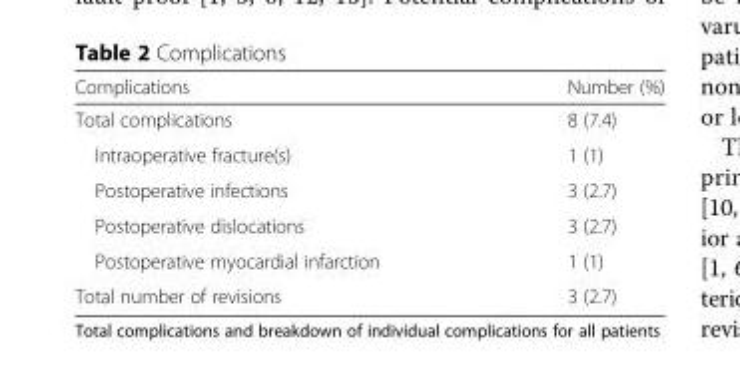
<table><thead><tr><td>Complications</td><td>Number (%)</td></tr></thead><tbody><tr><td>Total complications</td><td>8 (7.4)</td></tr><tr><td>Intraoperative fracture(s)</td><td>1 (1)</td></tr><tr><td>Postoperative infections</td><td>3 (2.7)</td></tr><tr><td>Postoperative dislocations</td><td>3 (2.7)</td></tr><tr><td>Postoperative myocardial infarction</td><td>1 (1)</td></tr><tr><td>Total number of revisions</td><td>3 (2.7)</td></tr></tbody></table>